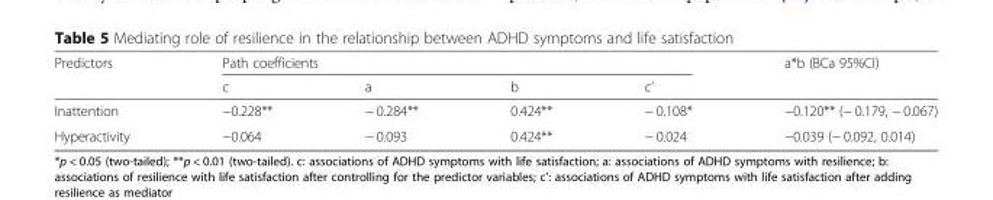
<table><thead><tr><td rowspan="2">Predictors</td><td colspan="4">Path coefficients</td><td rowspan="2">a*b (BCa 95%CI)</td></tr><tr><td>c</td><td>a</td><td>b</td><td>c’</td></tr></thead><tbody><tr><td>Inattention</td><td>−0.228**</td><td>− 0.284**</td><td>0.424**</td><td>− 0.108*</td><td>−0.120** (− 0.179, − 0.067)</td></tr><tr><td>Hyperactivity</td><td>−0.064</td><td>− 0.093</td><td>0.424**</td><td>− 0.024</td><td>−0.039 (− 0.092, 0.014)</td></tr></tbody></table>